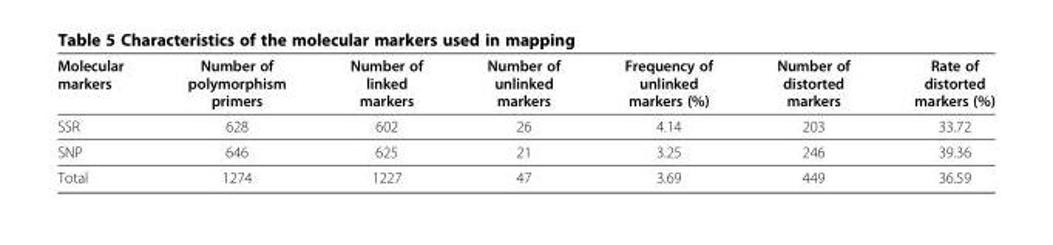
<table><thead><tr><td>Molecular markers</td><td>Number of polymorphism primers</td><td>Number of linked markers</td><td>Number of unlinked markers</td><td>Frequency of unlinked markers (%)</td><td>Number of distorted markers</td><td>Rate of distorted markers (%)</td></tr></thead><tbody><tr><td>SSR</td><td>628</td><td>602</td><td>26</td><td>4.14</td><td>203</td><td>33.72</td></tr><tr><td>SNP</td><td>646</td><td>625</td><td>21</td><td>3.25</td><td>246</td><td>39.36</td></tr><tr><td>Total</td><td>1274</td><td>1227</td><td>47</td><td>3.69</td><td>449</td><td>36.59</td></tr></tbody></table>